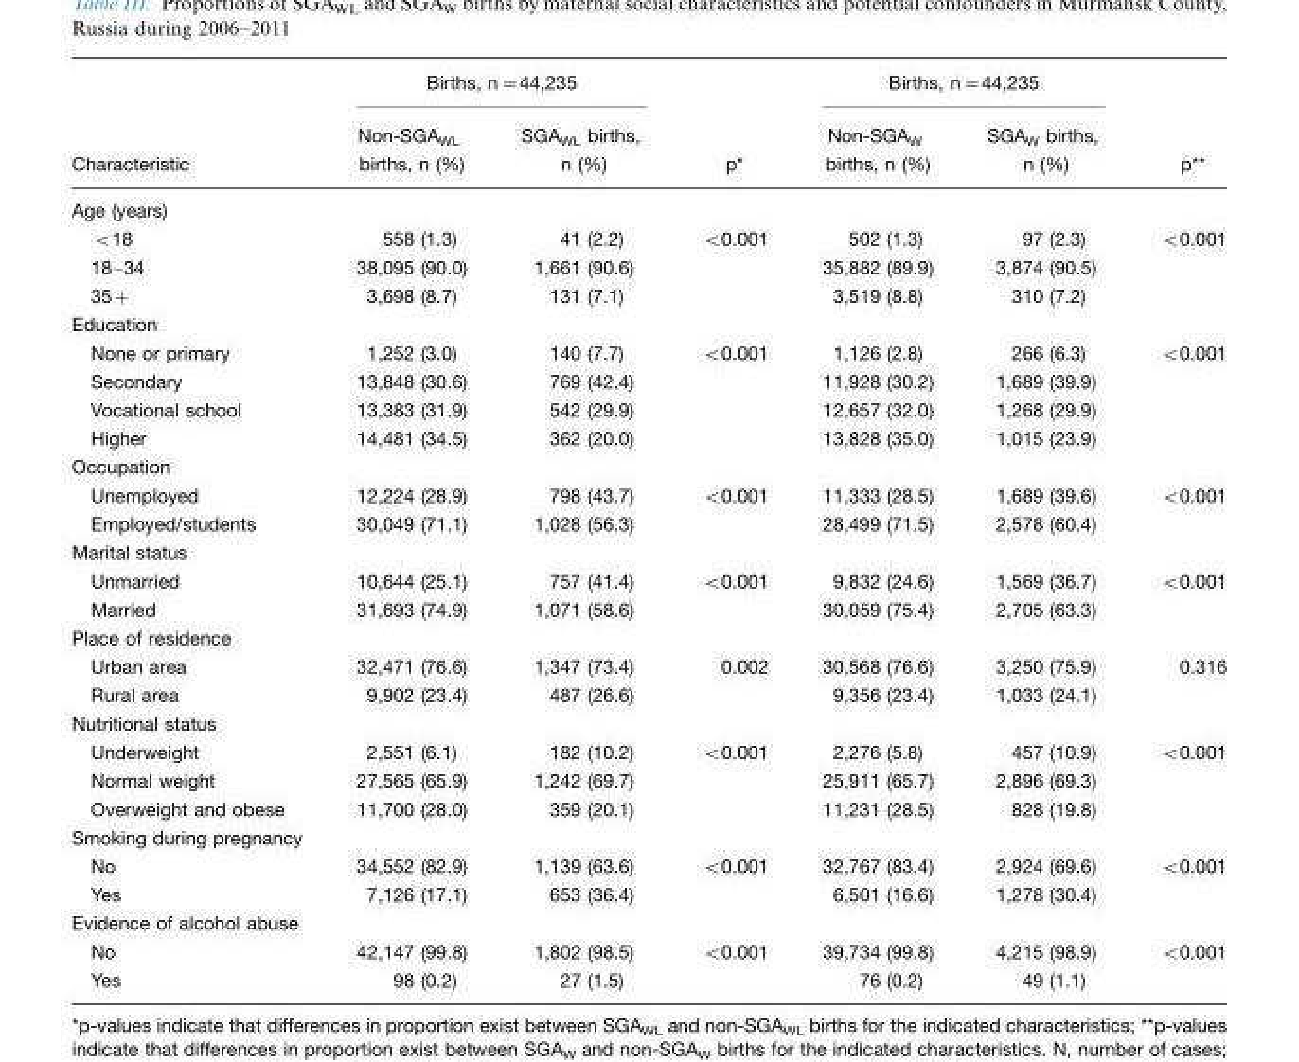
<table><thead><tr><td rowspan="2">Characteristic</td><td colspan="2">Births, n=44,235</td><td rowspan="2">p*</td><td colspan="2">Births, n=44,235</td><td rowspan="2">p**</td></tr><tr><td>Non-SGA<sub>WL</sub> births, n (%)</td><td>SGA<sub>WL</sub> births, n (%)</td><td>Non-SGA<sub>W</sub> births, n (%)</td><td>SGA<sub>W</sub> births, n (%)</td></tr></thead><tbody><tr><td colspan="7">Age (years)</td></tr><tr><td>&lt;18</td><td>558 (1.3)</td><td>41 (2.2)</td><td>&lt;0.001</td><td>502 (1.3)</td><td>97 (2.3)</td><td>&lt;0.001</td></tr><tr><td>18–34</td><td>38,095 (90.0)</td><td>1,661 (90.6)</td><td></td><td>35,882 (89.9)</td><td>3,874 (90.5)</td><td></td></tr><tr><td>35+</td><td>3,698 (8.7)</td><td>131 (7.1)</td><td></td><td>3,519 (8.8)</td><td>310 (7.2)</td><td></td></tr><tr><td colspan="7">Education</td></tr><tr><td>None or primary</td><td>1,252 (3.0)</td><td>140 (7.7)</td><td>&lt;0.001</td><td>1,126 (2.8)</td><td>266 (6.3)</td><td>&lt;0.001</td></tr><tr><td>Secondary</td><td>13,848 (30.6)</td><td>769 (42.4)</td><td></td><td>11,928 (30.2)</td><td>1,689 (39.9)</td><td></td></tr><tr><td>Vocational school</td><td>13,383 (31.9)</td><td>542 (29.9)</td><td></td><td>12,657 (32.0)</td><td>1,268 (29.9)</td><td></td></tr><tr><td>Higher</td><td>14,481 (34.5)</td><td>362 (20.0)</td><td></td><td>13,828 (35.0)</td><td>1,015 (23.9)</td><td></td></tr><tr><td colspan="7">Occupation</td></tr><tr><td>Unemployed</td><td>12,224 (28.9)</td><td>798 (43.7)</td><td>&lt;0.001</td><td>11,333 (28.5)</td><td>1,689 (39.6)</td><td>&lt;0.001</td></tr><tr><td>Employed/students</td><td>30,049 (71.1)</td><td>1,028 (56.3)</td><td></td><td>28,499 (71.5)</td><td>2,578 (60.4)</td><td></td></tr><tr><td colspan="7">Marital status</td></tr><tr><td>Unmarried</td><td>10,644 (25.1)</td><td>757 (41.4)</td><td>&lt;0.001</td><td>9,832 (24.6)</td><td>1,569 (36.7)</td><td>&lt;0.001</td></tr><tr><td>Married</td><td>31,693 (74.9)</td><td>1,071 (58.6)</td><td></td><td>30,059 (75.4)</td><td>2,705 (63.3)</td><td></td></tr><tr><td colspan="7">Place of residence</td></tr><tr><td>Urban area</td><td>32,471 (76.6)</td><td>1,347 (73.4)</td><td>0.002</td><td>30,568 (76.6)</td><td>3,250 (75.9)</td><td>0.316</td></tr><tr><td>Rural area</td><td>9,902 (23.4)</td><td>487 (26.6)</td><td></td><td>9,356 (23.4)</td><td>1,033 (24.1)</td><td></td></tr><tr><td colspan="7">Nutritional status</td></tr><tr><td>Underweight</td><td>2,551 (6.1)</td><td>182 (10.2)</td><td>&lt;0.001</td><td>2,276 (5.8)</td><td>457 (10.9)</td><td>&lt;0.001</td></tr><tr><td>Normal weight</td><td>27,565 (65.9)</td><td>1,242 (69.7)</td><td></td><td>25,911 (65.7)</td><td>2,896 (69.3)</td><td></td></tr><tr><td>Overweight and obese</td><td>11,700 (28.0)</td><td>359 (20.1)</td><td></td><td>11,231 (28.5)</td><td>828 (19.8)</td><td></td></tr><tr><td colspan="7">Smoking during pregnancy</td></tr><tr><td>No</td><td>34,552 (82.9)</td><td>1,139 (63.6)</td><td>&lt;0.001</td><td>32,767 (83.4)</td><td>2,924 (69.6)</td><td>&lt;0.001</td></tr><tr><td>Yes</td><td>7,126 (17.1)</td><td>653 (36.4)</td><td></td><td>6,501 (16.6)</td><td>1,278 (30.4)</td><td></td></tr><tr><td colspan="7">Evidence of alcohol abuse</td></tr><tr><td>No</td><td>42,147 (99.8)</td><td>1,802 (98.5)</td><td>&lt;0.001</td><td>39,734 (99.8)</td><td>4,215 (98.9)</td><td>&lt;0.001</td></tr><tr><td>Yes</td><td>98 (0.2)</td><td>27 (1.5)</td><td></td><td>76 (0.2)</td><td>49 (1.1)</td><td></td></tr></tbody></table>